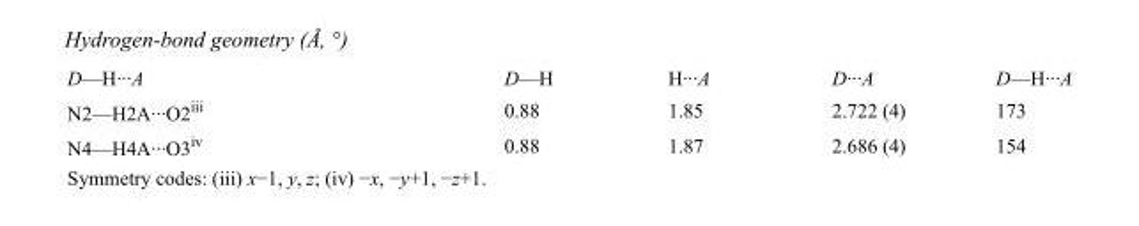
<table><tbody><tr><td>D—H···A</td><td>D—H</td><td>H···A</td><td>D···A</td><td>D—H···A</td></tr><tr><td>N2—H2A···O2<sup>iii</sup></td><td>0.88</td><td>1.85</td><td>2.722 (4)</td><td>173</td></tr><tr><td>N4—H4A···O3<sup>iv</sup></td><td>0.88</td><td>1.87</td><td>2.686 (4)</td><td>154</td></tr></tbody></table>